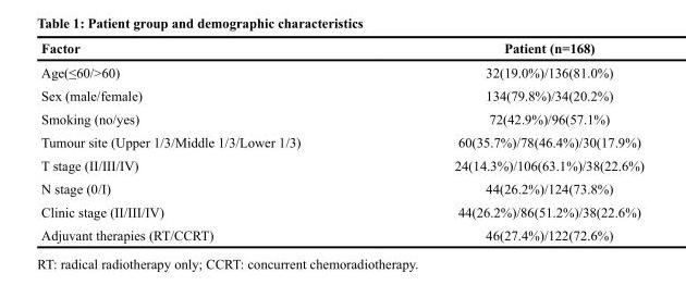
<table><thead><tr><td>Factor</td><td>Patient (n=168)</td></tr></thead><tbody><tr><td>Age(≤60/&gt;60)</td><td>32(19.0%)/136(81.0%)</td></tr><tr><td>Sex (male/female)</td><td>134(79.8%)/34(20.2%)</td></tr><tr><td>Smoking (no/yes)</td><td>72(42.9%)/96(57.1%)</td></tr><tr><td>Tumour site (Upper 1/3/Middle 1/3/Lower 1/3)</td><td>60(35.7%)/78(46.4%)/30(17.9%)</td></tr><tr><td>T stage (II/III/IV)</td><td>24(14.3%)/106(63.1%)/38(22.6%)</td></tr><tr><td>N stage (0/I)</td><td>44(26.2%)/124(73.8%)</td></tr><tr><td>Clinic stage (II/III/IV)</td><td>44(26.2%)/86(51.2%)/38(22.6%)</td></tr><tr><td>Adjuvant therapies (RT/CCRT)</td><td>46(27.4%)/122(72.6%)</td></tr></tbody></table>